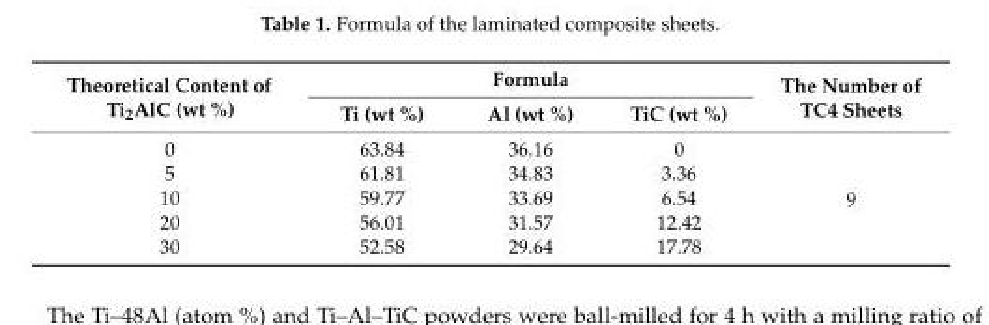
<table><thead><tr><td rowspan="2">Theoretical Content of Ti<sub>2</sub>AlC (wt %)</td><td colspan="3">Formula</td><td rowspan="2">The Number of TC4 Sheets</td></tr><tr><td>Ti (wt %)</td><td>Al (wt %)</td><td>TiC (wt %)</td></tr></thead><tbody><tr><td>0</td><td>63.84</td><td>36.16</td><td>0</td><td rowspan="5">9</td></tr><tr><td>5</td><td>61.81</td><td>34.83</td><td>3.36</td></tr><tr><td>10</td><td>59.77</td><td>33.69</td><td>6.54</td></tr><tr><td>20</td><td>56.01</td><td>31.57</td><td>12.42</td></tr><tr><td>30</td><td>52.58</td><td>29.64</td><td>17.78</td></tr></tbody></table>